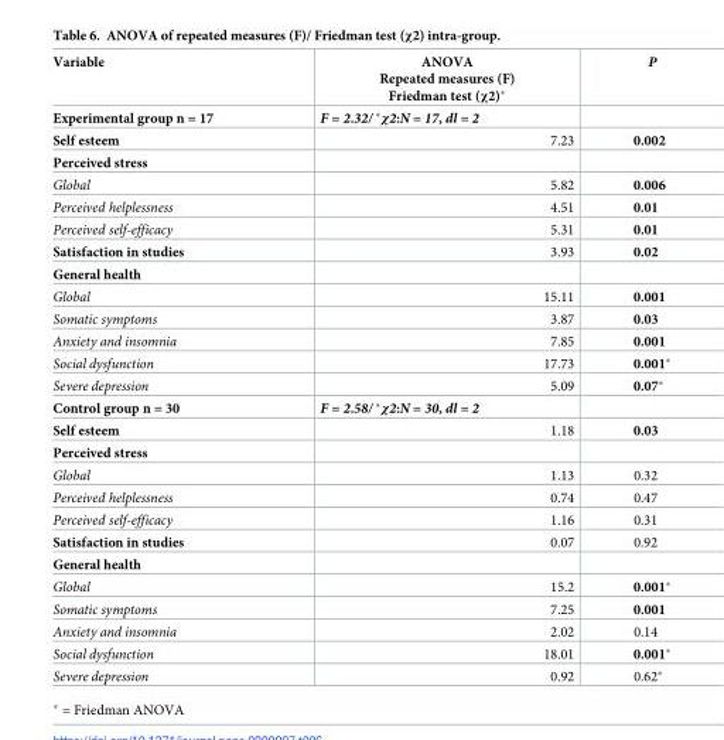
<table><thead><tr><td>Variable</td><td>ANOVA Repeated measures (F) Friedman test (χ2)*</td><td>P</td></tr></thead><tbody><tr><td>Experimental group n = 17</td><td>F = 2.32/ *χ2:N = 17, dl = 2</td><td></td></tr><tr><td>Self esteem</td><td>7.23</td><td>0.002</td></tr><tr><td colspan="3">Perceived stress</td></tr><tr><td>Global</td><td>5.82</td><td>0.006</td></tr><tr><td>Perceived helplessness</td><td>4.51</td><td>0.01</td></tr><tr><td>Perceived self-efficacy</td><td>5.31</td><td>0.01</td></tr><tr><td>Satisfaction in studies</td><td>3.93</td><td>0.02</td></tr><tr><td colspan="3">General health</td></tr><tr><td>Global</td><td>15.11</td><td>0.001</td></tr><tr><td>Somatic symptoms</td><td>3.87</td><td>0.03</td></tr><tr><td>Anxiety and insomnia</td><td>7.85</td><td>0.001</td></tr><tr><td>Social dysfunction</td><td>17.73</td><td>0.001*</td></tr><tr><td>Severe depression</td><td>5.09</td><td>0.07*</td></tr><tr><td>Control group n = 30</td><td>F = 2.58/ *χ2:N = 30, dl = 2</td><td></td></tr><tr><td>Self esteem</td><td>1.18</td><td>0.03</td></tr><tr><td colspan="3">Perceived stress</td></tr><tr><td>Global</td><td>1.13</td><td>0.32</td></tr><tr><td>Perceived helplessness</td><td>0.74</td><td>0.47</td></tr><tr><td>Perceived self-efficacy</td><td>1.16</td><td>0.31</td></tr><tr><td>Satisfaction in studies</td><td>0.07</td><td>0.92</td></tr><tr><td colspan="3">General health</td></tr><tr><td>Global</td><td>15.2</td><td>0.001*</td></tr><tr><td>Somatic symptoms</td><td>7.25</td><td>0.001</td></tr><tr><td>Anxiety and insomnia</td><td>2.02</td><td>0.14</td></tr><tr><td>Social dysfunction</td><td>18.01</td><td>0.001*</td></tr><tr><td>Severe depression</td><td>0.92</td><td>0.62*</td></tr></tbody></table>